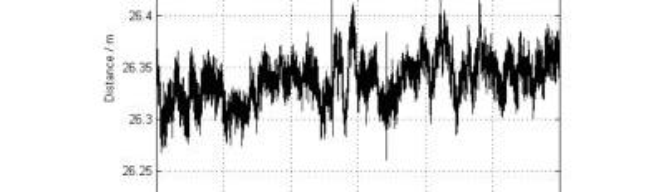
<table><thead><tr><td>Scheme</td><td>Reference Stations</td><td>Min</td><td>Max</td><td>Mean</td><td>STD</td></tr></thead><tbody><tr><td>1</td><td>Nearby</td><td>26.282</td><td>26.406</td><td>26.342</td><td>0.015</td></tr><tr><td>2</td><td>Far away</td><td>26.261</td><td>26.428</td><td>26.338</td><td>0.022</td></tr></tbody></table>